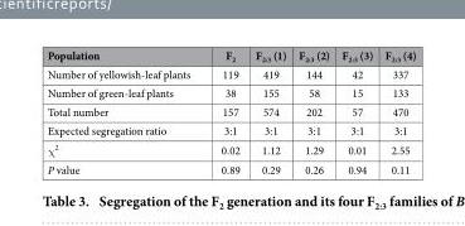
<table><thead><tr><td>Population</td><td>F<sub>2</sub></td><td>F<sub>2:3</sub> (1)</td><td>F<sub>2:3</sub> (2)</td><td>F<sub>2:3</sub> (3)</td><td>F<sub>2:3</sub> (4)</td></tr></thead><tbody><tr><td>Number of yellowish-leaf plants</td><td>119</td><td>419</td><td>144</td><td>42</td><td>337</td></tr><tr><td>Number of green-leaf plants</td><td>38</td><td>155</td><td>58</td><td>15</td><td>133</td></tr><tr><td>Total number</td><td>157</td><td>574</td><td>202</td><td>57</td><td>470</td></tr><tr><td rowspan="2">Expected segregation ratio χ2</td><td>3:1</td><td>3:1</td><td>3:1</td><td>3:1</td><td>3:1</td></tr><tr><td>0.02</td><td>1.12</td><td>1.29</td><td>0.01</td><td>2.55</td></tr><tr><td>P value</td><td>0.89</td><td>0.29</td><td>0.26</td><td>0.94</td><td>0.11</td></tr></tbody></table>